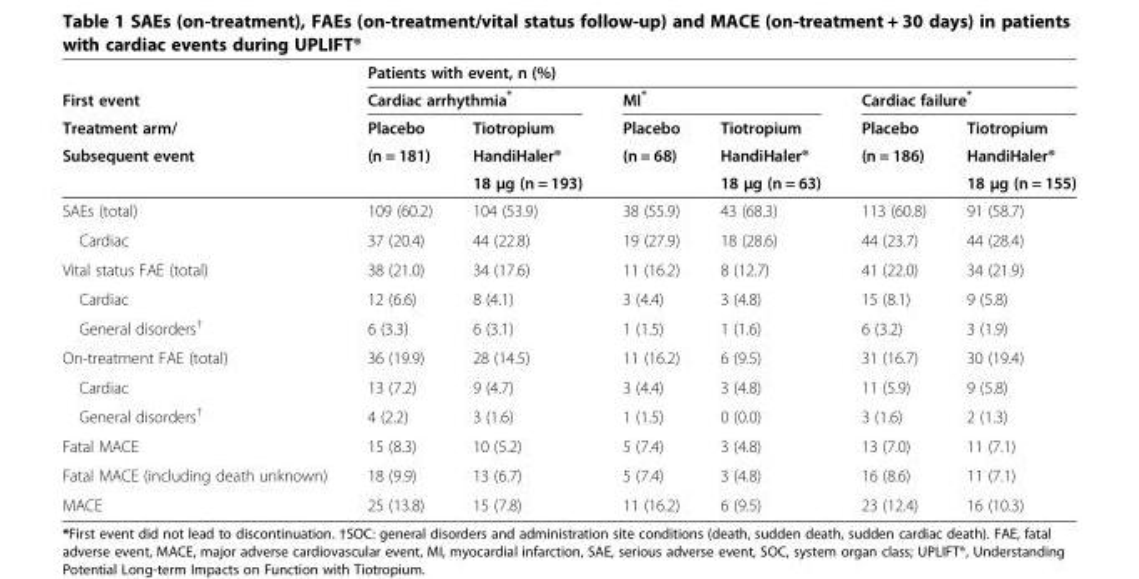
<table><thead><tr><td rowspan="5">First event Treatment arm/ Subsequent event</td><td colspan="6">Patients with event, n (%)</td></tr><tr><td colspan="2">Cardiac arrhythmia*</td><td colspan="2">MI*</td><td colspan="2">Cardiac failure*</td></tr><tr><td rowspan="3">Placebo (n = 181)</td><td rowspan="3">Tiotropium HandiHaler® 18 μg (n = 193)</td><td rowspan="3">Placebo (n = 68)</td><td rowspan="3">Tiotropium HandiHaler® 18 μg (n = 63)</td><td rowspan="3">Placebo (n = 186)</td><td rowspan="3">Tiotropium HandiHaler® 18 μg (n = 155)</td></tr><tr></tr><tr></tr></thead><tbody><tr><td>SAEs (total)</td><td>109 (60.2)</td><td>104 (53.9)</td><td>38 (55.9)</td><td>43 (68.3)</td><td>113 (60.8)</td><td>91 (58.7)</td></tr><tr><td>Cardiac</td><td>37 (20.4)</td><td>44 (22.8)</td><td>19 (27.9)</td><td>18 (28.6)</td><td>44 (23.7)</td><td>44 (28.4)</td></tr><tr><td>Vital status FAE (total)</td><td>38 (21.0)</td><td>34 (17.6)</td><td>11 (16.2)</td><td>8 (12.7)</td><td>41 (22.0)</td><td>34 (21.9)</td></tr><tr><td>Cardiac</td><td>12 (6.6)</td><td>8 (4.1)</td><td>3 (4.4)</td><td>3 (4.8)</td><td>15 (8.1)</td><td>9 (5.8)</td></tr><tr><td>General disorders<sup>†</sup></td><td>6 (3.3)</td><td>6 (3.1)</td><td>1 (1.5)</td><td>1 (1.6)</td><td>6 (3.2)</td><td>3 (1.9)</td></tr><tr><td>On-treatment FAE (total)</td><td>36 (19.9)</td><td>28 (14.5)</td><td>11 (16.2)</td><td>6 (9.5)</td><td>31 (16.7)</td><td>30 (19.4)</td></tr><tr><td>Cardiac</td><td>13 (7.2)</td><td>9 (4.7)</td><td>3 (4.4)</td><td>3 (4.8)</td><td>11 (5.9)</td><td>9 (5.8)</td></tr><tr><td>General disorders<sup>†</sup></td><td>4 (2.2)</td><td>3 (1.6)</td><td>1 (1.5)</td><td>0 (0.0)</td><td>3 (1.6)</td><td>2 (1.3)</td></tr><tr><td>Fatal MACE</td><td>15 (8.3)</td><td>10 (5.2)</td><td>5 (7.4)</td><td>3 (4.8)</td><td>13 (7.0)</td><td>11 (7.1)</td></tr><tr><td>Fatal MACE (including death unknown)</td><td>18 (9.9)</td><td>13 (6.7)</td><td>5 (7.4)</td><td>3 (4.8)</td><td>16 (8.6)</td><td>11 (7.1)</td></tr><tr><td>MACE</td><td>25 (13.8)</td><td>15 (7.8)</td><td>11 (16.2)</td><td>6 (9.5)</td><td>23 (12.4)</td><td>16 (10.3)</td></tr></tbody></table>